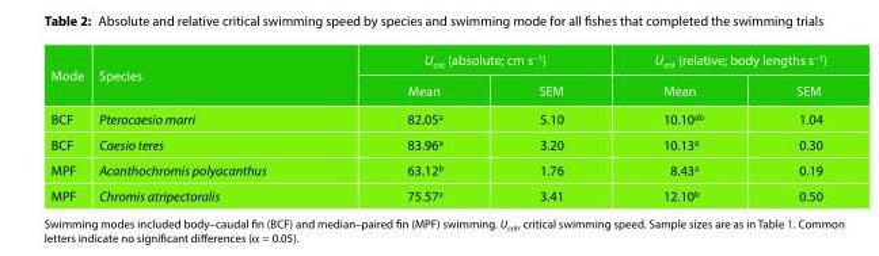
<table><thead><tr><td rowspan="2">Mode</td><td rowspan="2">Species</td><td colspan="2">U<sub>crit</sub> (absolute; cm s<sup>−1</sup>)</td><td colspan="2">U<sub>crit</sub> (relative; body lengths s<sup>−1</sup>)</td></tr><tr><td>Mean</td><td>SEM</td><td>Mean</td><td>SEM</td></tr></thead><tbody><tr><td>BCF</td><td>Pterocaesio marri</td><td>82.05<sup>a</sup></td><td>5.10</td><td>10.10<sup>ab</sup></td><td>1.04</td></tr><tr><td>BCF</td><td>Caesio teres</td><td>83.96<sup>a</sup></td><td>3.20</td><td>10.13<sup>a</sup></td><td>0.30</td></tr><tr><td>MPF</td><td>Acanthochromis polyacanthus</td><td>63.12<sup>b</sup></td><td>1.76</td><td>8.43<sup>a</sup></td><td>0.19</td></tr><tr><td>MPF</td><td>Chromis atripectoralis</td><td>75.57<sup>a</sup></td><td>3.41</td><td>12.10<sup>b</sup></td><td>0.50</td></tr></tbody></table>